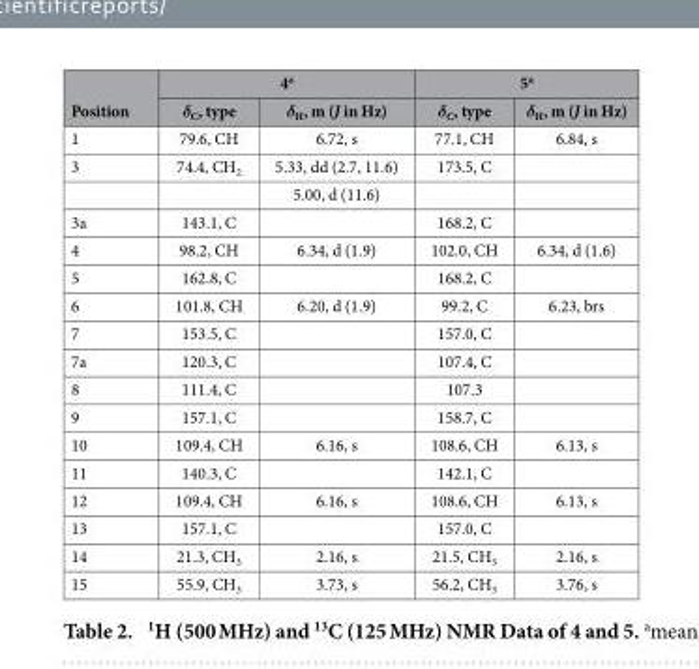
<table><thead><tr><td rowspan="2">Position</td><td colspan="2">4<sup>a</sup></td><td colspan="2">5<sup>a</sup></td></tr><tr><td>δ<sub>C</sub>, type</td><td>δ<sub>H</sub>, m (J in Hz)</td><td>δ<sub>C</sub>, type</td><td>δ<sub>H</sub>, m (J in Hz)</td></tr></thead><tbody><tr><td>1</td><td>79.6, CH</td><td>6.72, s</td><td>77.1, CH</td><td>6.84, s</td></tr><tr><td rowspan="2">3</td><td>74.4, CH<sub>2</sub></td><td>5.33, dd (2.7, 11.6)</td><td>173.5, C</td><td></td></tr><tr><td></td><td>5.00, d (11.6)</td><td></td><td></td></tr><tr><td>3a</td><td>143.1, C</td><td></td><td>168.2, C</td><td></td></tr><tr><td>4</td><td>98.2, CH</td><td>6.34, d (1.9)</td><td>102.0, CH</td><td>6.34, d (1.6)</td></tr><tr><td>5</td><td>162.8, C</td><td></td><td>168.2, C</td><td></td></tr><tr><td>6</td><td>101.8, CH</td><td>6.20, d (1.9)</td><td>99.2, C</td><td>6.23, brs</td></tr><tr><td>7</td><td>153.5, C</td><td></td><td>157.0, C</td><td></td></tr><tr><td>7a</td><td>120.3, C</td><td></td><td>107.4, C</td><td></td></tr><tr><td>8</td><td>111.4, C</td><td></td><td>107.3</td><td></td></tr><tr><td>9</td><td>157.1, C</td><td></td><td>158.7, C</td><td></td></tr><tr><td>10</td><td>109.4, CH</td><td>6.16, s</td><td>108.6, CH</td><td>6.13, s</td></tr><tr><td>11</td><td>140.3, C</td><td></td><td>142.1, C</td><td></td></tr><tr><td>12</td><td>109.4, CH</td><td>6.16, s</td><td>108.6, CH</td><td>6.13, s</td></tr><tr><td>13</td><td>157.1, C</td><td></td><td>157.0, C</td><td></td></tr><tr><td>14</td><td>21.3, CH<sub>3</sub></td><td>2.16, s</td><td>21.5, CH<sub>3</sub></td><td>2.16, s</td></tr><tr><td>15</td><td>55.9, CH<sub>3</sub></td><td>3.73, s</td><td>56.2, CH<sub>3</sub></td><td>3.76, s</td></tr></tbody></table>